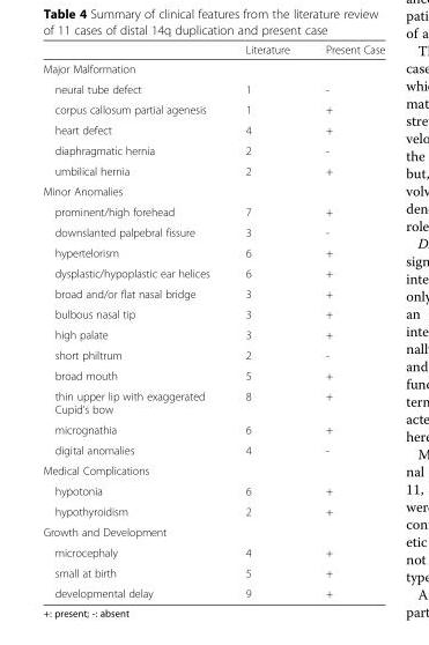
<table><thead><tr><td></td><td>Literature</td><td>Present Case</td></tr></thead><tbody><tr><td colspan="3">Major Malformation</td></tr><tr><td>neural tube defect</td><td>1</td><td>-</td></tr><tr><td>corpus callosum partial agenesis</td><td>1</td><td>+</td></tr><tr><td>heart defect</td><td>4</td><td>+</td></tr><tr><td>diaphragmatic hernia</td><td>2</td><td>-</td></tr><tr><td>umbilical hernia</td><td>2</td><td>+</td></tr><tr><td colspan="3">Minor Anomalies</td></tr><tr><td>prominent/high forehead</td><td>7</td><td>+</td></tr><tr><td>downslanted palpebral fissure</td><td>3</td><td>-</td></tr><tr><td>hypertelorism</td><td>6</td><td>+</td></tr><tr><td>dysplastic/hypoplastic ear helices</td><td>6</td><td>+</td></tr><tr><td>broad and/or flat nasal bridge</td><td>3</td><td>+</td></tr><tr><td>bulbous nasal tip</td><td>3</td><td>+</td></tr><tr><td>high palate</td><td>3</td><td>+</td></tr><tr><td>short philtrum</td><td>2</td><td>-</td></tr><tr><td>broad mouth</td><td>5</td><td>+</td></tr><tr><td>thin upper lip with exaggerated Cupid’s bow</td><td>8</td><td>+</td></tr><tr><td>micrognathia</td><td>6</td><td>+</td></tr><tr><td>digital anomalies</td><td>4</td><td>-</td></tr><tr><td colspan="3">Medical Complications</td></tr><tr><td>hypotonia</td><td>6</td><td>+</td></tr><tr><td>hypothyroidism</td><td>2</td><td>+</td></tr><tr><td colspan="3">Growth and Development</td></tr><tr><td>microcephaly</td><td>4</td><td>+</td></tr><tr><td>small at birth</td><td>5</td><td>+</td></tr><tr><td>developmental delay</td><td>9</td><td>+</td></tr></tbody></table>